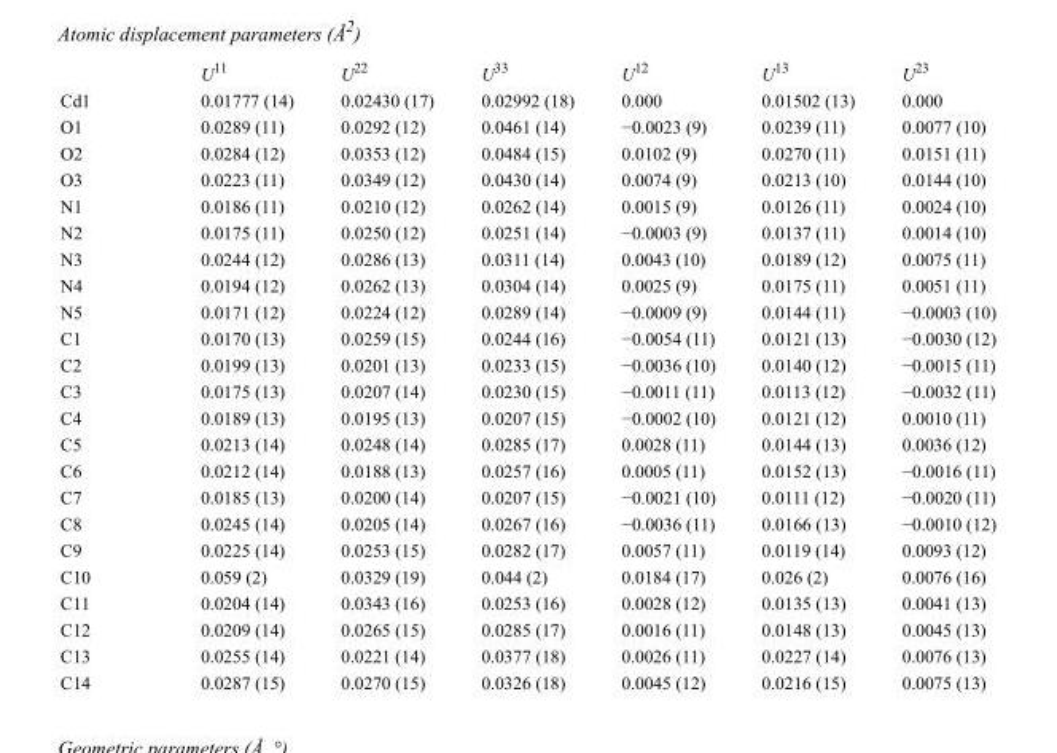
<table><thead><tr><td></td><td>U<sup>11</sup></td><td>U<sup>22</sup></td><td>U<sup>33</sup></td><td>U<sup>12</sup></td><td>U<sup>13</sup></td><td>U<sup>23</sup></td></tr></thead><tbody><tr><td>Cd1</td><td>0.01777 (14)</td><td>0.02430 (17)</td><td>0.02992 (18)</td><td>0.000</td><td>0.01502 (13)</td><td>0.000</td></tr><tr><td>O1</td><td>0.0289 (11)</td><td>0.0292 (12)</td><td>0.0461 (14)</td><td>−0.0023 (9)</td><td>0.0239 (11)</td><td>0.0077 (10)</td></tr><tr><td>O2</td><td>0.0284 (12)</td><td>0.0353 (12)</td><td>0.0484 (15)</td><td>0.0102 (9)</td><td>0.0270 (11)</td><td>0.0151 (11)</td></tr><tr><td>O3</td><td>0.0223 (11)</td><td>0.0349 (12)</td><td>0.0430 (14)</td><td>0.0074 (9)</td><td>0.0213 (10)</td><td>0.0144 (10)</td></tr><tr><td>N1</td><td>0.0186 (11)</td><td>0.0210 (12)</td><td>0.0262 (14)</td><td>0.0015 (9)</td><td>0.0126 (11)</td><td>0.0024 (10)</td></tr><tr><td>N2</td><td>0.0175 (11)</td><td>0.0250 (12)</td><td>0.0251 (14)</td><td>−0.0003 (9)</td><td>0.0137 (11)</td><td>0.0014 (10)</td></tr><tr><td>N3</td><td>0.0244 (12)</td><td>0.0286 (13)</td><td>0.0311 (14)</td><td>0.0043 (10)</td><td>0.0189 (12)</td><td>0.0075 (11)</td></tr><tr><td>N4</td><td>0.0194 (12)</td><td>0.0262 (13)</td><td>0.0304 (14)</td><td>0.0025 (9)</td><td>0.0175 (11)</td><td>0.0051 (11)</td></tr><tr><td>N5</td><td>0.0171 (12)</td><td>0.0224 (12)</td><td>0.0289 (14)</td><td>−0.0009 (9)</td><td>0.0144 (11)</td><td>−0.0003 (10)</td></tr><tr><td>C1</td><td>0.0170 (13)</td><td>0.0259 (15)</td><td>0.0244 (16)</td><td>−0.0054 (11)</td><td>0.0121 (13)</td><td>−0.0030 (12)</td></tr><tr><td>C2</td><td>0.0199 (13)</td><td>0.0201 (13)</td><td>0.0233 (15)</td><td>−0.0036 (10)</td><td>0.0140 (12)</td><td>−0.0015 (11)</td></tr><tr><td>C3</td><td>0.0175 (13)</td><td>0.0207 (14)</td><td>0.0230 (15)</td><td>−0.0011 (11)</td><td>0.0113 (12)</td><td>−0.0032 (11)</td></tr><tr><td>C4</td><td>0.0189 (13)</td><td>0.0195 (13)</td><td>0.0207 (15)</td><td>−0.0002 (10)</td><td>0.0121 (12)</td><td>0.0010 (11)</td></tr><tr><td>C5</td><td>0.0213 (14)</td><td>0.0248 (14)</td><td>0.0285 (17)</td><td>0.0028 (11)</td><td>0.0144 (13)</td><td>0.0036 (12)</td></tr><tr><td>C6</td><td>0.0212 (14)</td><td>0.0188 (13)</td><td>0.0257 (16)</td><td>0.0005 (11)</td><td>0.0152 (13)</td><td>−0.0016 (11)</td></tr><tr><td>C7</td><td>0.0185 (13)</td><td>0.0200 (14)</td><td>0.0207 (15)</td><td>−0.0021 (10)</td><td>0.0111 (12)</td><td>−0.0020 (11)</td></tr><tr><td>C8</td><td>0.0245 (14)</td><td>0.0205 (14)</td><td>0.0267 (16)</td><td>−0.0036 (11)</td><td>0.0166 (13)</td><td>−0.0010 (12)</td></tr><tr><td>C9</td><td>0.0225 (14)</td><td>0.0253 (15)</td><td>0.0282 (17)</td><td>0.0057 (11)</td><td>0.0119 (14)</td><td>0.0093 (12)</td></tr><tr><td>C10</td><td>0.059 (2)</td><td>0.0329 (19)</td><td>0.044 (2)</td><td>0.0184 (17)</td><td>0.026 (2)</td><td>0.0076 (16)</td></tr><tr><td>C11</td><td>0.0204 (14)</td><td>0.0343 (16)</td><td>0.0253 (16)</td><td>0.0028 (12)</td><td>0.0135 (13)</td><td>0.0041 (13)</td></tr><tr><td>C12</td><td>0.0209 (14)</td><td>0.0265 (15)</td><td>0.0285 (17)</td><td>0.0016 (11)</td><td>0.0148 (13)</td><td>0.0045 (13)</td></tr><tr><td>C13</td><td>0.0255 (14)</td><td>0.0221 (14)</td><td>0.0377 (18)</td><td>0.0026 (11)</td><td>0.0227 (14)</td><td>0.0076 (13)</td></tr><tr><td>C14</td><td>0.0287 (15)</td><td>0.0270 (15)</td><td>0.0326 (18)</td><td>0.0045 (12)</td><td>0.0216 (15)</td><td>0.0075 (13)</td></tr></tbody></table>